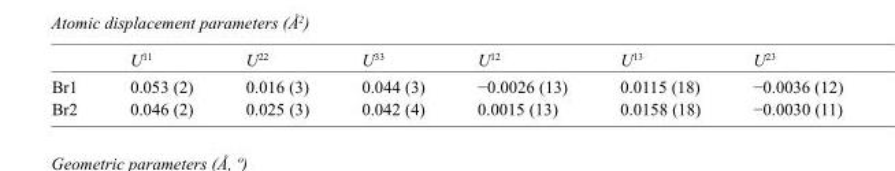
<table><thead><tr><td></td><td>U<sup>11</sup></td><td>U<sup>22</sup></td><td>U<sup>33</sup></td><td>U<sup>12</sup></td><td>U<sup>13</sup></td><td>U<sup>23</sup></td></tr></thead><tbody><tr><td>Br1</td><td>0.053 (2)</td><td>0.016 (3)</td><td>0.044 (3)</td><td>−0.0026 (13)</td><td>0.0115 (18)</td><td>−0.0036 (12)</td></tr><tr><td>Br2</td><td>0.046 (2)</td><td>0.025 (3)</td><td>0.042 (4)</td><td>0.0015 (13)</td><td>0.0158 (18)</td><td>−0.0030 (11)</td></tr></tbody></table>